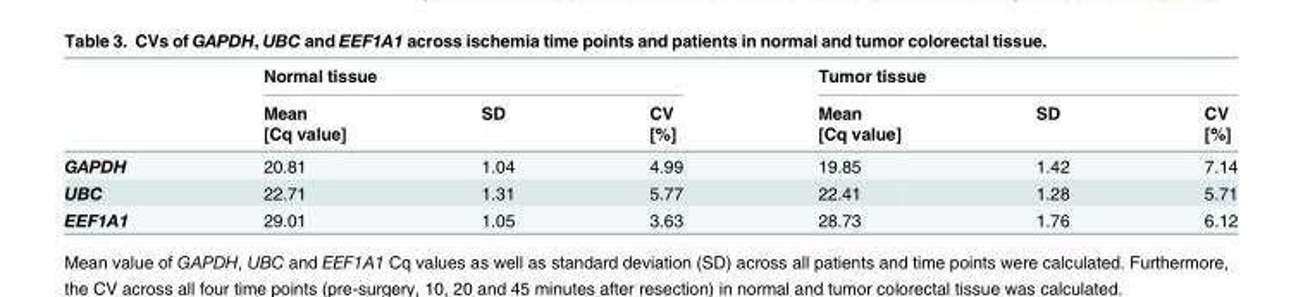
<table><thead><tr><td rowspan="3"></td><td colspan="3">Normal tissue</td><td colspan="3">Tumor tissue</td></tr><tr><td rowspan="2">Mean [Cq value]</td><td rowspan="2">SD</td><td rowspan="2">CV [%]</td><td rowspan="2">Mean [Cq value]</td><td rowspan="2">SD</td><td rowspan="2">CV [%]</td></tr><tr></tr></thead><tbody><tr><td>GAPDH</td><td>20.81</td><td>1.04</td><td>4.99</td><td>19.85</td><td>1.42</td><td>7.14</td></tr><tr><td>UBC</td><td>22.71</td><td>1.31</td><td>5.77</td><td>22.41</td><td>1.28</td><td>5.71</td></tr><tr><td>EEF1A1</td><td>29.01</td><td>1.05</td><td>3.63</td><td>28.73</td><td>1.76</td><td>6.12</td></tr></tbody></table>